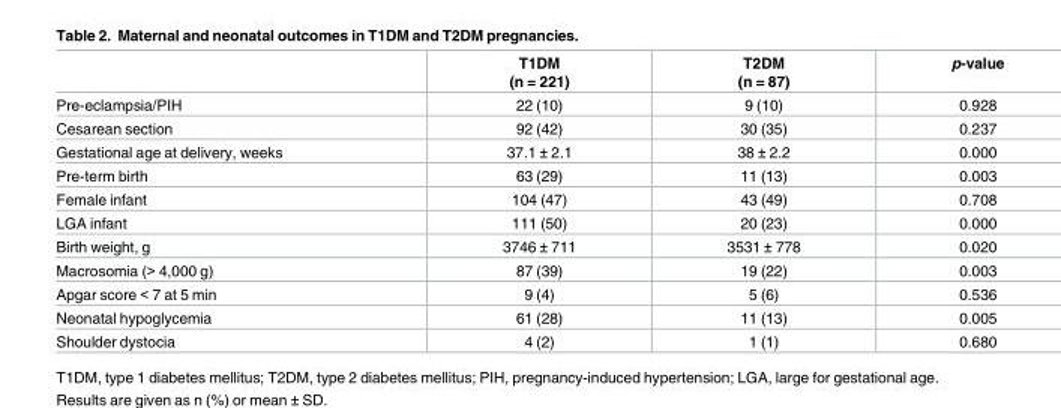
<table><thead><tr><td></td><td>T1DM (n = 221)</td><td>T2DM (n = 87)</td><td>p-value</td></tr></thead><tbody><tr><td>Pre-eclampsia/PIH</td><td>22 (10)</td><td>9 (10)</td><td>0.928</td></tr><tr><td>Cesarean section</td><td>92 (42)</td><td>30 (35)</td><td>0.237</td></tr><tr><td>Gestational age at delivery, weeks</td><td>37.1 ± 2.1</td><td>38 ± 2.2</td><td>0.000</td></tr><tr><td>Pre-term birth</td><td>63 (29)</td><td>11 (13)</td><td>0.003</td></tr><tr><td>Female infant</td><td>104 (47)</td><td>43 (49)</td><td>0.708</td></tr><tr><td>LGA infant</td><td>111 (50)</td><td>20 (23)</td><td>0.000</td></tr><tr><td>Birth weight, g</td><td>3746 ± 711</td><td>3531 ± 778</td><td>0.020</td></tr><tr><td>Macrosomia (&gt; 4,000 g)</td><td>87 (39)</td><td>19 (22)</td><td>0.003</td></tr><tr><td>Apgar score &lt; 7 at 5 min</td><td>9 (4)</td><td>5 (6)</td><td>0.536</td></tr><tr><td>Neonatal hypoglycemia</td><td>61 (28)</td><td>11 (13)</td><td>0.005</td></tr><tr><td>Shoulder dystocia</td><td>4 (2)</td><td>1 (1)</td><td>0.680</td></tr></tbody></table>